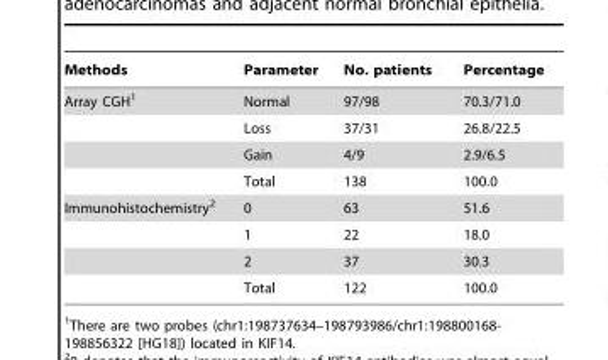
<table><thead><tr><td>Methods</td><td>Parameter</td><td>No. patients</td><td>Percentage</td></tr></thead><tbody><tr><td rowspan="4">Array CGH<sup>1</sup></td><td>Normal</td><td>97/98</td><td>70.3/71.0</td></tr><tr><td>Loss</td><td>37/31</td><td>26.8/22.5</td></tr><tr><td>Gain</td><td>4/9</td><td>2.9/6.5</td></tr><tr><td>Total</td><td>138</td><td>100.0</td></tr><tr><td rowspan="4">Immunohistochemistry<sup>2</sup></td><td>0</td><td>63</td><td>51.6</td></tr><tr><td>1</td><td>22</td><td>18.0</td></tr><tr><td>2</td><td>37</td><td>30.3</td></tr><tr><td>Total</td><td>122</td><td>100.0</td></tr></tbody></table>